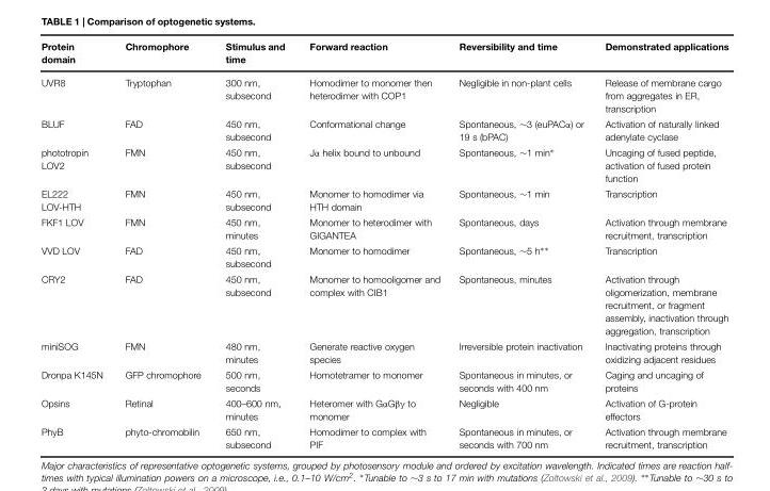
<table><thead><tr><td>Protein domain</td><td>Chromophore</td><td>Stimulus and time</td><td>Forward reaction</td><td>Reversibility and time</td><td>Demonstrated applications</td></tr></thead><tbody><tr><td>UVR8</td><td>Tryptophan</td><td>300 nm, subsecond</td><td>Homodimer to monomer then heterodimer with COP1</td><td>Negligible in non-plant cells</td><td>Release of membrane cargo from aggregates in ER, transcription</td></tr><tr><td>BLUF</td><td>FAD</td><td>450 nm, subsecond</td><td>Conformational change</td><td>Spontaneous, ∼3 (euPACα) or 19 s (bPAC)</td><td>Activation of naturally linked adenylate cyclase</td></tr><tr><td>phototropin LOV2</td><td>FMN</td><td>450 nm, subsecond</td><td>Jα helix bound to unbound</td><td>Spontaneous, ∼1 min∗</td><td>Uncaging of fused peptide, activation of fused protein function</td></tr><tr><td>EL222 LOV-HTH</td><td>FMN</td><td>450 nm, subsecond</td><td>Monomer to homodimer via HTH domain</td><td>Spontaneous, ∼1 min</td><td>Transcription</td></tr><tr><td>FKF1 LOV</td><td>FMN</td><td>450 nm, minutes</td><td>Monomer to heterodimer with GIGANTEA</td><td>Spontaneous, days</td><td>Activation through membrane recruitment, transcription</td></tr><tr><td>VVD LOV</td><td>FAD</td><td>450 nm, subsecond</td><td>Monomer to homodimer</td><td>Spontaneous, ∼5 h∗∗</td><td>Transcription</td></tr><tr><td>CRY2</td><td>FAD</td><td>450 nm, subsecond</td><td>Monomer to homooligomer and complex with CIB1</td><td>Spontaneous, minutes</td><td>Activation through oligomerization, membrane recruitment, or fragment assembly, inactivation through aggregation, transcription</td></tr><tr><td>miniSOG</td><td>FMN</td><td>480 nm, minutes</td><td>Generate reactive oxygen species</td><td>Irreversible protein inactivation</td><td>Inactivating proteins through oxidizing adjacent residues</td></tr><tr><td>Dronpa K145N</td><td>GFP chromophore</td><td>500 nm, seconds</td><td>Homotetramer to monomer</td><td>Spontaneous in minutes, or seconds with 400 nm</td><td>Caging and uncaging of proteins</td></tr><tr><td>Opsins</td><td>Retinal</td><td>400–600 nm, minutes</td><td>Heteromer with GαGβγ to monomer</td><td>Negligible</td><td>Activation of G-protein effectors</td></tr><tr><td>PhyB</td><td>phyto-chromobilin</td><td>650 nm, subsecond</td><td>Homodimer to complex with PIF</td><td>Spontaneous in minutes, or seconds with 700 nm</td><td>Activation through membrane recruitment, transcription</td></tr></tbody></table>